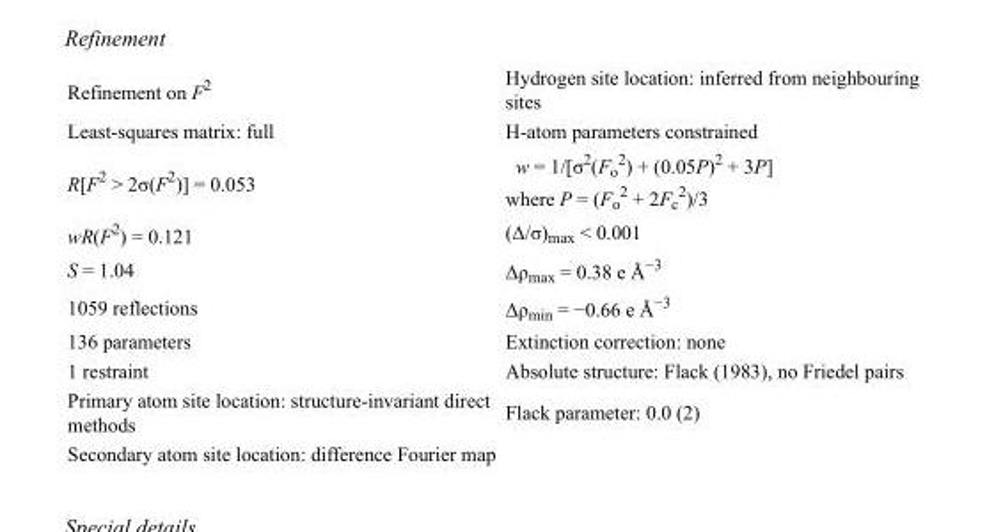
<table><tbody><tr><td>Refinement on F<sup>2</sup></td><td>Hydrogen site location: inferred from neighbouring sites</td></tr><tr><td>Least-squares matrix: full</td><td>H-atom parameters constrained</td></tr><tr><td>R[F<sup>2</sup> &gt; 2σ(F<sup>2</sup>)] = 0.053</td><td>w = 1/[σ<sup>2</sup>(F<sub>o</sub> <sup>2</sup>) + (0.05P)<sup>2</sup> + 3P] where P = (F<sub>o</sub> <sup>2</sup> + 2F<sub>c</sub> <sup>2</sup>)/3</td></tr><tr><td>wR(F<sup>2</sup>) = 0.121</td><td>(Δ/σ)<sub>max</sub> &lt; 0.001</td></tr><tr><td>S = 1.04</td><td>Δρ<sub>max</sub> = 0.38 e Å<sup>−3</sup></td></tr><tr><td>1059 reflections</td><td>Δρ<sub>min</sub> = −0.66 e Å<sup>−3</sup></td></tr><tr><td>136 parameters</td><td>Extinction correction: none</td></tr><tr><td>1 restraint</td><td>Absolute structure: Flack (1983), no Friedel pairs</td></tr><tr><td>Primary atom site location: structure-invariant direct methods</td><td>Flack parameter: 0.0 (2)</td></tr><tr><td>Secondary atom site location: difference Fourier map</td><td></td></tr></tbody></table>